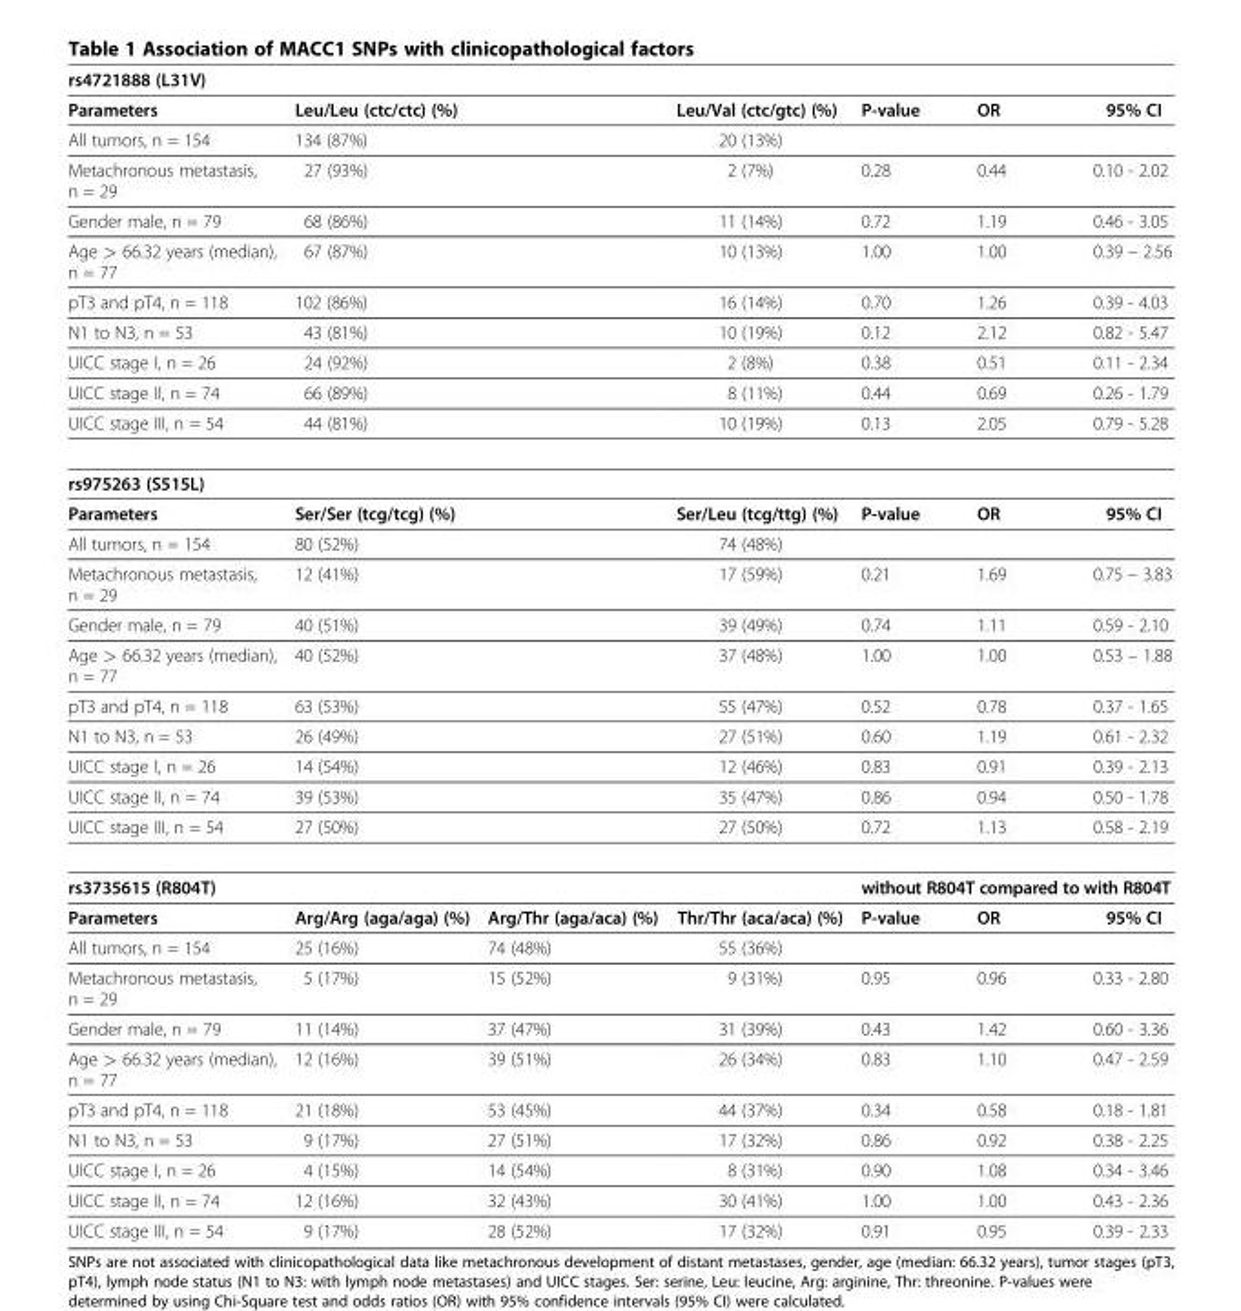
<table><thead><tr><td>rs4721888 (L31V)</td><td></td><td></td><td></td><td></td><td></td><td></td></tr></thead><tbody><tr><td>Parameters</td><td colspan="2">Leu/Leu (ctc/ctc) (%)</td><td>Leu/Val (ctc/gtc) (%)</td><td>P-value</td><td>OR</td><td>95% CI</td></tr><tr><td>All tumors, n = 154</td><td colspan="2">134 (87%)</td><td>20 (13%)</td><td></td><td></td><td></td></tr><tr><td>Metachronous metastasis, n = 29</td><td colspan="2">27 (93%)</td><td>2 (7%)</td><td>0.28</td><td>0.44</td><td>0.10 - 2.02</td></tr><tr><td>Gender male, n = 79</td><td colspan="2">68 (86%)</td><td>11 (14%)</td><td>0.72</td><td>1.19</td><td>0.46 - 3.05</td></tr><tr><td>Age &gt; 66.32 years (median), n = 77</td><td colspan="2">67 (87%)</td><td>10 (13%)</td><td>1.00</td><td>1.00</td><td>0.39 – 2.56</td></tr><tr><td>pT3 and pT4, n = 118</td><td colspan="2">102 (86%)</td><td>16 (14%)</td><td>0.70</td><td>1.26</td><td>0.39 - 4.03</td></tr><tr><td>N1 to N3, n = 53</td><td colspan="2">43 (81%)</td><td>10 (19%)</td><td>0.12</td><td>2.12</td><td>0.82 - 5.47</td></tr><tr><td>UICC stage I, n = 26</td><td colspan="2">24 (92%)</td><td>2 (8%)</td><td>0.38</td><td>0.51</td><td>0.11 - 2.34</td></tr><tr><td>UICC stage II, n = 74</td><td colspan="2">66 (89%)</td><td>8 (11%)</td><td>0.44</td><td>0.69</td><td>0.26 - 1.79</td></tr><tr><td>UICC stage III, n = 54</td><td colspan="2">44 (81%)</td><td>10 (19%)</td><td>0.13</td><td>2.05</td><td>0.79 - 5.28</td></tr><tr><td colspan="7">rs975263 (S515L)</td></tr><tr><td>Parameters</td><td colspan="2">Ser/Ser (tcg/tcg) (%)</td><td>Ser/Leu (tcg/ttg) (%)</td><td>P-value</td><td>OR</td><td>95% CI</td></tr><tr><td>All tumors, n = 154</td><td colspan="2">80 (52%)</td><td>74 (48%)</td><td></td><td></td><td></td></tr><tr><td>Metachronous metastasis, n = 29</td><td colspan="2">12 (41%)</td><td>17 (59%)</td><td>0.21</td><td>1.69</td><td>0.75 – 3.83</td></tr><tr><td>Gender male, n = 79</td><td colspan="2">40 (51%)</td><td>39 (49%)</td><td>0.74</td><td>1.11</td><td>0.59 - 2.10</td></tr><tr><td>Age &gt; 66.32 years (median), n = 77</td><td colspan="2">40 (52%)</td><td>37 (48%)</td><td>1.00</td><td>1.00</td><td>0.53 – 1.88</td></tr><tr><td>pT3 and pT4, n = 118</td><td colspan="2">63 (53%)</td><td>55 (47%)</td><td>0.52</td><td>0.78</td><td>0.37 - 1.65</td></tr><tr><td>N1 to N3, n = 53</td><td colspan="2">26 (49%)</td><td>27 (51%)</td><td>0.60</td><td>1.19</td><td>0.61 - 2.32</td></tr><tr><td>UICC stage I, n = 26</td><td colspan="2">14 (54%)</td><td>12 (46%)</td><td>0.83</td><td>0.91</td><td>0.39 - 2.13</td></tr><tr><td>UICC stage II, n = 74</td><td colspan="2">39 (53%)</td><td>35 (47%)</td><td>0.86</td><td>0.94</td><td>0.50 - 1.78</td></tr><tr><td>UICC stage III, n = 54</td><td colspan="2">27 (50%)</td><td>27 (50%)</td><td>0.72</td><td>1.13</td><td>0.58 - 2.19</td></tr><tr><td>rs3735615 (R804T)</td><td></td><td></td><td></td><td colspan="3">without R804T compared to with R804T</td></tr><tr><td>Parameters</td><td>Arg/Arg (aga/aga) (%)</td><td>Arg/Thr (aga/aca) (%)</td><td>Thr/Thr (aca/aca) (%)</td><td>P-value</td><td>OR</td><td>95% CI</td></tr><tr><td>All tumors, n = 154</td><td>25 (16%)</td><td>74 (48%)</td><td>55 (36%)</td><td></td><td></td><td></td></tr><tr><td>Metachronous metastasis, n = 29</td><td>5 (17%)</td><td>15 (52%)</td><td>9 (31%)</td><td>0.95</td><td>0.96</td><td>0.33 - 2.80</td></tr><tr><td>Gender male, n = 79</td><td>11 (14%)</td><td>37 (47%)</td><td>31 (39%)</td><td>0.43</td><td>1.42</td><td>0.60 - 3.36</td></tr><tr><td>Age &gt; 66.32 years (median), n = 77</td><td>12 (16%)</td><td>39 (51%)</td><td>26 (34%)</td><td>0.83</td><td>1.10</td><td>0.47 - 2.59</td></tr><tr><td>pT3 and pT4, n = 118</td><td>21 (18%)</td><td>53 (45%)</td><td>44 (37%)</td><td>0.34</td><td>0.58</td><td>0.18 - 1.81</td></tr><tr><td>N1 to N3, n = 53</td><td>9 (17%)</td><td>27 (51%)</td><td>17 (32%)</td><td>0.86</td><td>0.92</td><td>0.38 - 2.25</td></tr><tr><td>UICC stage I, n = 26</td><td>4 (15%)</td><td>14 (54%)</td><td>8 (31%)</td><td>0.90</td><td>1.08</td><td>0.34 - 3.46</td></tr><tr><td>UICC stage II, n = 74</td><td>12 (16%)</td><td>32 (43%)</td><td>30 (41%)</td><td>1.00</td><td>1.00</td><td>0.43 - 2.36</td></tr><tr><td>UICC stage III, n = 54</td><td>9 (17%)</td><td>28 (52%)</td><td>17 (32%)</td><td>0.91</td><td>0.95</td><td>0.39 - 2.33</td></tr></tbody></table>